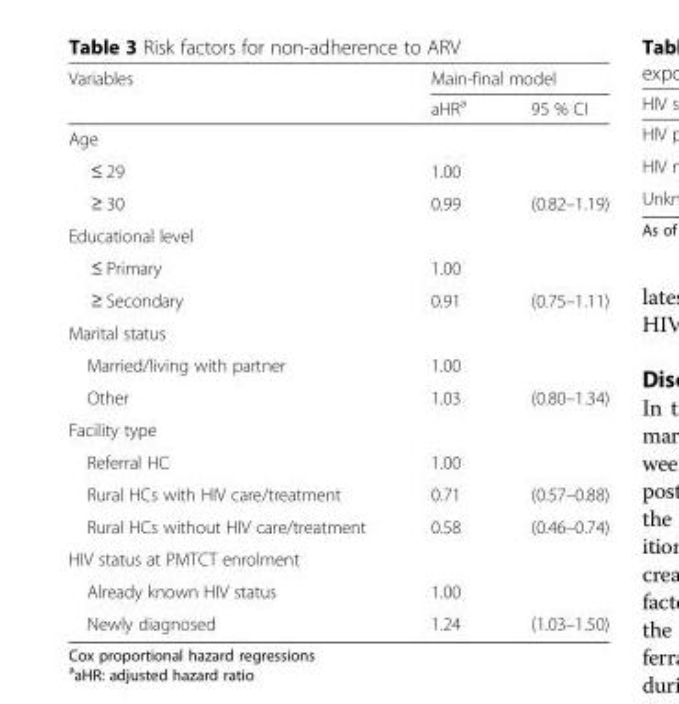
<table><thead><tr><td rowspan="2">Variables</td><td colspan="2">Main-final model</td></tr><tr><td>aHR<sup>a</sup></td><td>95 % CI</td></tr></thead><tbody><tr><td colspan="3">Age</td></tr><tr><td>≤ 29</td><td>1.00</td><td></td></tr><tr><td>≥ 30</td><td>0.99</td><td>(0.82–1.19)</td></tr><tr><td colspan="3">Educational level</td></tr><tr><td>≤ Primary</td><td>1.00</td><td></td></tr><tr><td>≥ Secondary</td><td>0.91</td><td>(0.75–1.11)</td></tr><tr><td colspan="3">Marital status</td></tr><tr><td>Married/living with partner</td><td>1.00</td><td></td></tr><tr><td>Other</td><td>1.03</td><td>(0.80–1.34)</td></tr><tr><td colspan="3">Facility type</td></tr><tr><td>Referral HC</td><td>1.00</td><td></td></tr><tr><td>Rural HCs with HIV care/treatment</td><td>0.71</td><td>(0.57–0.88)</td></tr><tr><td>Rural HCs without HIV care/treatment</td><td>0.58</td><td>(0.46–0.74)</td></tr><tr><td colspan="3">HIV status at PMTCT enrolment</td></tr><tr><td>Already known HIV status</td><td>1.00</td><td></td></tr><tr><td>Newly diagnosed</td><td>1.24</td><td>(1.03–1.50)</td></tr></tbody></table>